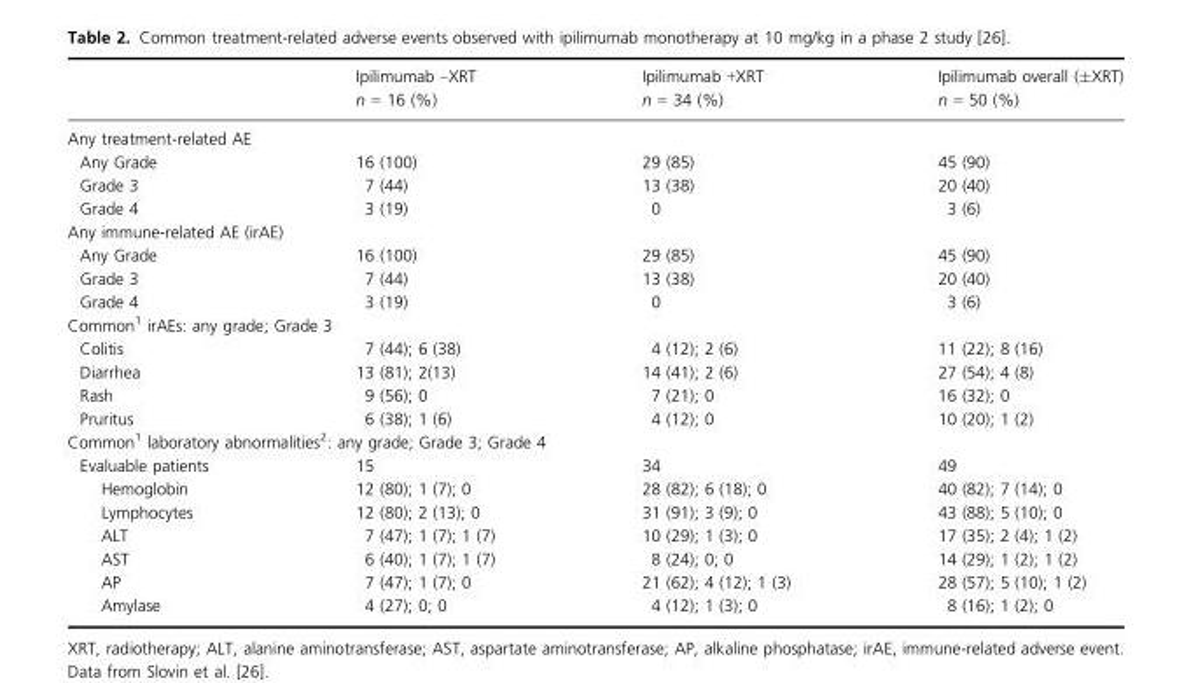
<table><thead><tr><td></td><td>Ipilimumab –XRT n = 16 (%)</td><td>Ipilimumab +XRT n = 34 (%)</td><td>Ipilimumab overall (±XRT) n = 50 (%)</td></tr></thead><tbody><tr><td colspan="4">Any treatment-related AE</td></tr><tr><td>Any Grade</td><td>16 (100)</td><td>29 (85)</td><td>45 (90)</td></tr><tr><td>Grade 3</td><td>7 (44)</td><td>13 (38)</td><td>20 (40)</td></tr><tr><td>Grade 4</td><td>3 (19)</td><td>0</td><td>3 (6)</td></tr><tr><td colspan="4">Any immune-related AE (irAE)</td></tr><tr><td>Any Grade</td><td>16 (100)</td><td>29 (85)</td><td>45 (90)</td></tr><tr><td>Grade 3</td><td>7 (44)</td><td>13 (38)</td><td>20 (40)</td></tr><tr><td>Grade 4</td><td>3 (19)</td><td>0</td><td>3 (6)</td></tr><tr><td colspan="4">Common<sup>1</sup> irAEs: any grade; Grade 3</td></tr><tr><td>Colitis</td><td>7 (44); 6 (38)</td><td>4 (12); 2 (6)</td><td>11 (22); 8 (16)</td></tr><tr><td>Diarrhea</td><td>13 (81); 2(13)</td><td>14 (41); 2 (6)</td><td>27 (54); 4 (8)</td></tr><tr><td>Rash</td><td>9 (56); 0</td><td>7 (21); 0</td><td>16 (32); 0</td></tr><tr><td>Pruritus</td><td>6 (38); 1 (6)</td><td>4 (12); 0</td><td>10 (20); 1 (2)</td></tr><tr><td colspan="4">Common1 laboratory abnormalities2: any grade; Grade 3; Grade 4</td></tr><tr><td>Evaluable patients</td><td>15</td><td>34</td><td>49</td></tr><tr><td>Hemoglobin</td><td>12 (80); 1 (7); 0</td><td>28 (82); 6 (18); 0</td><td>40 (82); 7 (14); 0</td></tr><tr><td>Lymphocytes</td><td>12 (80); 2 (13); 0</td><td>31 (91); 3 (9); 0</td><td>43 (88); 5 (10); 0</td></tr><tr><td>ALT</td><td>7 (47); 1 (7); 1 (7)</td><td>10 (29); 1 (3); 0</td><td>17 (35); 2 (4); 1 (2)</td></tr><tr><td>AST</td><td>6 (40); 1 (7); 1 (7)</td><td>8 (24); 0; 0</td><td>14 (29); 1 (2); 1 (2)</td></tr><tr><td>AP</td><td>7 (47); 1 (7); 0</td><td>21 (62); 4 (12); 1 (3)</td><td>28 (57); 5 (10); 1 (2)</td></tr><tr><td>Amylase</td><td>4 (27); 0; 0</td><td>4 (12); 1 (3); 0</td><td>8 (16); 1 (2); 0</td></tr></tbody></table>